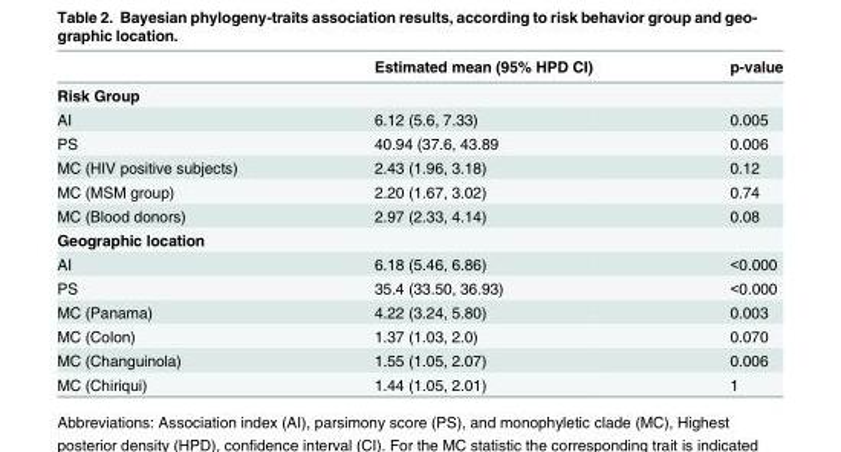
<table><thead><tr><td></td><td>Estimated mean (95% HPD CI)</td><td>p-value</td></tr></thead><tbody><tr><td colspan="3">Risk Group</td></tr><tr><td>AI</td><td>6.12 (5.6, 7.33)</td><td>0.005</td></tr><tr><td>PS</td><td>40.94 (37.6, 43.89</td><td>0.006</td></tr><tr><td>MC (HIV positive subjects)</td><td>2.43 (1.96, 3.18)</td><td>0.12</td></tr><tr><td>MC (MSM group)</td><td>2.20 (1.67, 3.02)</td><td>0.74</td></tr><tr><td>MC (Blood donors)</td><td>2.97 (2.33, 4.14)</td><td>0.08</td></tr><tr><td colspan="3">Geographic location</td></tr><tr><td>AI</td><td>6.18 (5.46, 6.86)</td><td>&lt;0.000</td></tr><tr><td>PS</td><td>35.4 (33.50, 36.93)</td><td>&lt;0.000</td></tr><tr><td>MC (Panama)</td><td>4.22 (3.24, 5.80)</td><td>0.003</td></tr><tr><td>MC (Colon)</td><td>1.37 (1.03, 2.0)</td><td>0.070</td></tr><tr><td>MC (Changuinola)</td><td>1.55 (1.05, 2.07)</td><td>0.006</td></tr><tr><td>MC (Chiriqui)</td><td>1.44 (1.05, 2.01)</td><td>1</td></tr></tbody></table>